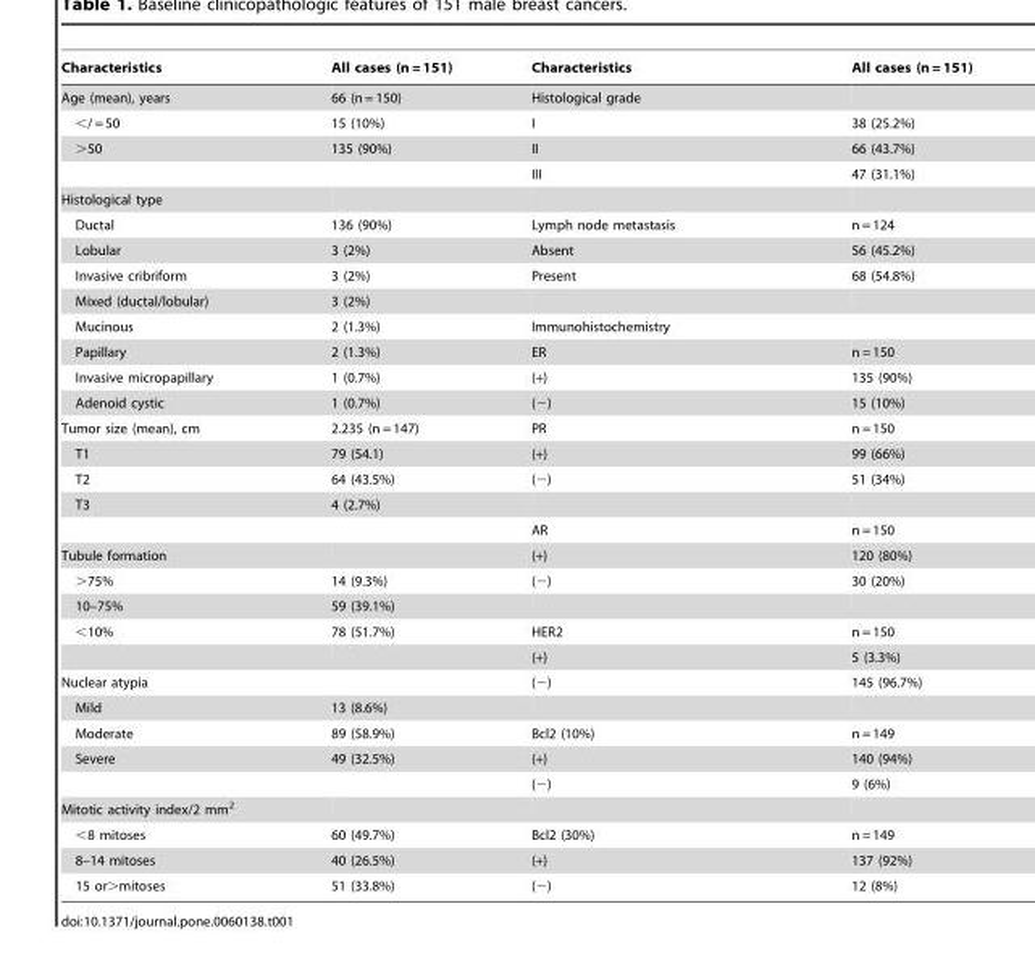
<table><thead><tr><td>Characteristics</td><td>All cases (n = 151)</td><td>Characteristics</td><td>All cases (n = 151)</td></tr></thead><tbody><tr><td>Age (mean), years</td><td>66 (n = 150)</td><td>Histological grade</td><td></td></tr><tr><td>&lt;/ = 50</td><td>15 (10%)</td><td>I</td><td>38 (25.2%)</td></tr><tr><td rowspan="2">&gt;50</td><td>135 (90%)</td><td>II</td><td>66 (43.7%)</td></tr><tr><td></td><td>III</td><td>47 (31.1%)</td></tr><tr><td colspan="4">Histological type</td></tr><tr><td>Ductal</td><td>136 (90%)</td><td>Lymph node metastasis</td><td>n = 124</td></tr><tr><td>Lobular</td><td>3 (2%)</td><td>Absent</td><td>56 (45.2%)</td></tr><tr><td>Invasive cribriform</td><td>3 (2%)</td><td>Present</td><td>68 (54.8%)</td></tr><tr><td>Mixed (ductal/lobular)</td><td>3 (2%)</td><td></td><td></td></tr><tr><td>Mucinous</td><td>2 (1.3%)</td><td>Immunohistochemistry</td><td></td></tr><tr><td>Papillary</td><td>2 (1.3%)</td><td>ER</td><td>n = 150</td></tr><tr><td>Invasive micropapillary</td><td>1 (0.7%)</td><td>(+)</td><td>135 (90%)</td></tr><tr><td>Adenoid cystic</td><td>1 (0.7%)</td><td>(−)</td><td>15 (10%)</td></tr><tr><td>Tumor size (mean), cm</td><td>2.235 (n = 147)</td><td>PR</td><td>n = 150</td></tr><tr><td>T1</td><td>79 (54.1)</td><td>(+)</td><td>99 (66%)</td></tr><tr><td>T2</td><td>64 (43.5%)</td><td>(−)</td><td>51 (34%)</td></tr><tr><td rowspan="2">T3</td><td>4 (2.7%)</td><td></td><td></td></tr><tr><td></td><td>AR</td><td>n = 150</td></tr><tr><td>Tubule formation</td><td></td><td>(+)</td><td>120 (80%)</td></tr><tr><td>&gt;75%</td><td>14 (9.3%)</td><td>(−)</td><td>30 (20%)</td></tr><tr><td>10–75%</td><td>59 (39.1%)</td><td></td><td></td></tr><tr><td rowspan="2">&lt;10%</td><td>78 (51.7%)</td><td>HER2</td><td>n = 150</td></tr><tr><td></td><td>(+)</td><td>5 (3.3%)</td></tr><tr><td>Nuclear atypia</td><td></td><td>(−)</td><td>145 (96.7%)</td></tr><tr><td>Mild</td><td>13 (8.6%)</td><td></td><td></td></tr><tr><td>Moderate</td><td>89 (58.9%)</td><td>Bcl2 (10%)</td><td>n = 149</td></tr><tr><td rowspan="2">Severe</td><td>49 (32.5%)</td><td>(+)</td><td>140 (94%)</td></tr><tr><td></td><td>(−)</td><td>9 (6%)</td></tr><tr><td colspan="4">Mitotic activity index/2 mm<sup>2</sup></td></tr><tr><td>&lt;8 mitoses</td><td>60 (49.7%)</td><td>Bcl2 (30%)</td><td>n = 149</td></tr><tr><td>8–14 mitoses</td><td>40 (26.5%)</td><td>(+)</td><td>137 (92%)</td></tr><tr><td>15 or&gt;mitoses</td><td>51 (33.8%)</td><td>(−)</td><td>12 (8%)</td></tr></tbody></table>